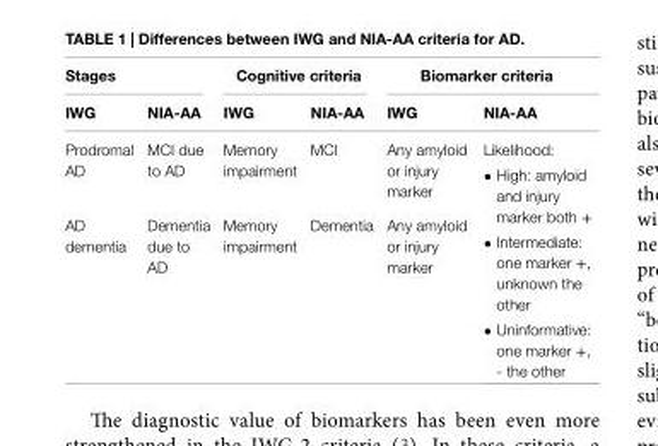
<table><thead><tr><td colspan="2">Stages</td><td colspan="2">Cognitive criteria</td><td colspan="2">Biomarker criteria</td></tr><tr><td>iwG</td><td>NiA-AA</td><td>iwG</td><td>NiA-AA</td><td>iwG</td><td>NiA-AA</td></tr></thead><tbody><tr><td>Prodromal AD</td><td>MCI due to AD</td><td>Memory impairment</td><td>MCI</td><td>Any amyloid or injury marker</td><td rowspan="2">Likelihood: • High: amyloid and injury marker both + • Intermediate: one marker +, unknown the other • Uninformative: one marker +, - the other</td></tr><tr><td>AD dementia</td><td>Dementia due to AD</td><td>Memory impairment</td><td>Dementia</td><td>Any amyloid or injury marker</td></tr></tbody></table>